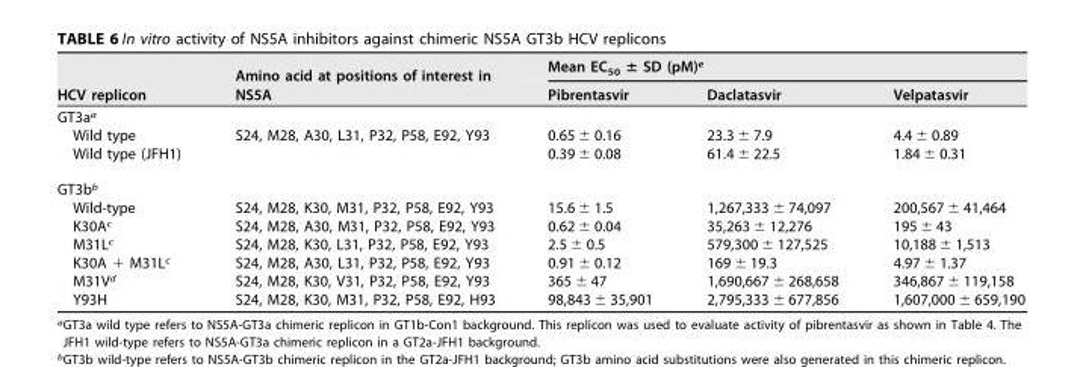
<table><thead><tr><td rowspan="2">HCV replicon</td><td rowspan="2">Amino acid at positions of interest in NS5A</td><td colspan="3">Mean EC<sub>50</sub> ± SD (pM)<sup>e</sup></td></tr><tr><td>Pibrentasvir</td><td>Daclatasvir</td><td>Velpatasvir</td></tr></thead><tbody><tr><td colspan="5">GT3a<sup>a</sup></td></tr><tr><td>Wild type</td><td rowspan="2">S24, M28, A30, L31, P32, P58, E92, Y93</td><td>0.65 ± 0.16</td><td>23.3 ± 7.9</td><td>4.4 ± 0.89</td></tr><tr><td>Wild type (JFH1)</td><td>0.39 ± 0.08</td><td>61.4 ± 22.5</td><td>1.84 ± 0.31</td></tr><tr><td colspan="5">GT3b<sup>b</sup></td></tr><tr><td>Wild-type</td><td>S24, M28, K30, M31, P32, P58, E92, Y93</td><td>15.6 ± 1.5</td><td>1,267,333 ± 74,097</td><td>200,567 ± 41,464</td></tr><tr><td>K30A<sup>c</sup></td><td>S24, M28, A30, M31, P32, P58, E92, Y93</td><td>0.62 ± 0.04</td><td>35,263 ± 12,276</td><td>195 ± 43</td></tr><tr><td>M31L<sup>c</sup></td><td>S24, M28, K30, L31, P32, P58, E92, Y93</td><td>2.5 ± 0.5</td><td>579,300 ± 127,525</td><td>10,188 ± 1,513</td></tr><tr><td>K30A + M31L<sup>c</sup></td><td>S24, M28, A30, L31, P32, P58, E92, Y93</td><td>0.91 ± 0.12</td><td>169 ± 19.3</td><td>4.97 ± 1.37</td></tr><tr><td>M31V<sup>d</sup></td><td>S24, M28, K30, V31, P32, P58, E92, Y93</td><td>365 ± 47</td><td>1,690,667 ± 268,658</td><td>346,867 ± 119,158</td></tr><tr><td>Y93H</td><td>S24, M28, K30, M31, P32, P58, E92, H93</td><td>98,843 ± 35,901</td><td>2,795,333 ± 677,856</td><td>1,607,000 ± 659,190</td></tr></tbody></table>